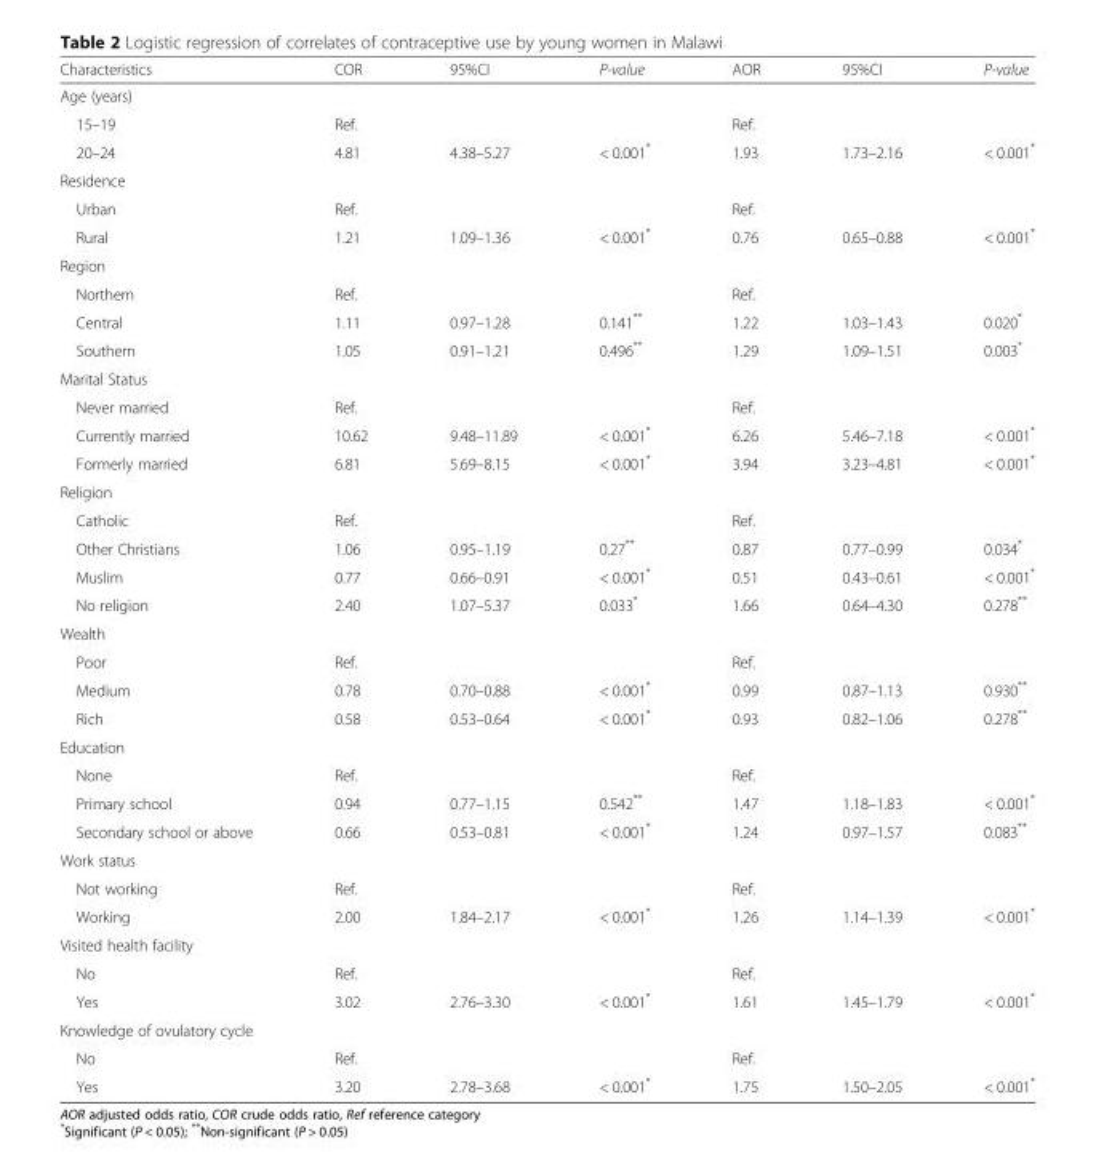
<table><thead><tr><td>Characteristics</td><td>COR</td><td>95%CI</td><td>P-value</td><td>AOR</td><td>95%CI</td><td>P-value</td></tr></thead><tbody><tr><td colspan="7">Age (years)</td></tr><tr><td>15–19</td><td>Ref.</td><td></td><td></td><td>Ref.</td><td></td><td></td></tr><tr><td>20–24</td><td>4.81</td><td>4.38–5.27</td><td>&lt; 0.001*</td><td>1.93</td><td>1.73–2.16</td><td>&lt; 0.001*</td></tr><tr><td colspan="7">Residence</td></tr><tr><td>Urban</td><td>Ref.</td><td></td><td></td><td>Ref.</td><td></td><td></td></tr><tr><td>Rural</td><td>1.21</td><td>1.09–1.36</td><td>&lt; 0.001*</td><td>0.76</td><td>0.65–0.88</td><td>&lt; 0.001*</td></tr><tr><td colspan="7">Region</td></tr><tr><td>Northern</td><td>Ref.</td><td></td><td></td><td>Ref.</td><td></td><td></td></tr><tr><td>Central</td><td>1.11</td><td>0.97–1.28</td><td>0.141**</td><td>1.22</td><td>1.03–1.43</td><td>0.020*</td></tr><tr><td>Southern</td><td>1.05</td><td>0.91–1.21</td><td>0.496**</td><td>1.29</td><td>1.09–1.51</td><td>0.003*</td></tr><tr><td colspan="7">Marital Status</td></tr><tr><td>Never married</td><td>Ref.</td><td></td><td></td><td>Ref.</td><td></td><td></td></tr><tr><td>Currently married</td><td>10.62</td><td>9.48–11.89</td><td>&lt; 0.001*</td><td>6.26</td><td>5.46–7.18</td><td>&lt; 0.001*</td></tr><tr><td>Formerly married</td><td>6.81</td><td>5.69–8.15</td><td>&lt; 0.001*</td><td>3.94</td><td>3.23–4.81</td><td>&lt; 0.001*</td></tr><tr><td colspan="7">Religion</td></tr><tr><td>Catholic</td><td>Ref.</td><td></td><td></td><td>Ref.</td><td></td><td></td></tr><tr><td>Other Christians</td><td>1.06</td><td>0.95–1.19</td><td>0.27**</td><td>0.87</td><td>0.77–0.99</td><td>0.034*</td></tr><tr><td>Muslim</td><td>0.77</td><td>0.66–0.91</td><td>&lt; 0.001*</td><td>0.51</td><td>0.43–0.61</td><td>&lt; 0.001*</td></tr><tr><td>No religion</td><td>2.40</td><td>1.07–5.37</td><td>0.033*</td><td>1.66</td><td>0.64–4.30</td><td>0.278**</td></tr><tr><td colspan="7">Wealth</td></tr><tr><td>Poor</td><td>Ref.</td><td></td><td></td><td>Ref.</td><td></td><td></td></tr><tr><td>Medium</td><td>0.78</td><td>0.70–0.88</td><td>&lt; 0.001*</td><td>0.99</td><td>0.87–1.13</td><td>0.930**</td></tr><tr><td>Rich</td><td>0.58</td><td>0.53–0.64</td><td>&lt; 0.001*</td><td>0.93</td><td>0.82–1.06</td><td>0.278**</td></tr><tr><td colspan="7">Education</td></tr><tr><td>None</td><td>Ref.</td><td></td><td></td><td>Ref.</td><td></td><td></td></tr><tr><td>Primary school</td><td>0.94</td><td>0.77–1.15</td><td>0.542**</td><td>1.47</td><td>1.18–1.83</td><td>&lt; 0.001*</td></tr><tr><td>Secondary school or above</td><td>0.66</td><td>0.53–0.81</td><td>&lt; 0.001*</td><td>1.24</td><td>0.97–1.57</td><td>0.083**</td></tr><tr><td colspan="7">Work status</td></tr><tr><td>Not working</td><td>Ref.</td><td></td><td></td><td>Ref.</td><td></td><td></td></tr><tr><td>Working</td><td>2.00</td><td>1.84–2.17</td><td>&lt; 0.001*</td><td>1.26</td><td>1.14–1.39</td><td>&lt; 0.001*</td></tr><tr><td colspan="7">Visited health facility</td></tr><tr><td>No</td><td>Ref.</td><td></td><td></td><td>Ref.</td><td></td><td></td></tr><tr><td>Yes</td><td>3.02</td><td>2.76–3.30</td><td>&lt; 0.001*</td><td>1.61</td><td>1.45–1.79</td><td>&lt; 0.001*</td></tr><tr><td colspan="7">Knowledge of ovulatory cycle</td></tr><tr><td>No</td><td>Ref.</td><td></td><td></td><td>Ref.</td><td></td><td></td></tr><tr><td>Yes</td><td>3.20</td><td>2.78–3.68</td><td>&lt; 0.001*</td><td>1.75</td><td>1.50–2.05</td><td>&lt; 0.001*</td></tr></tbody></table>